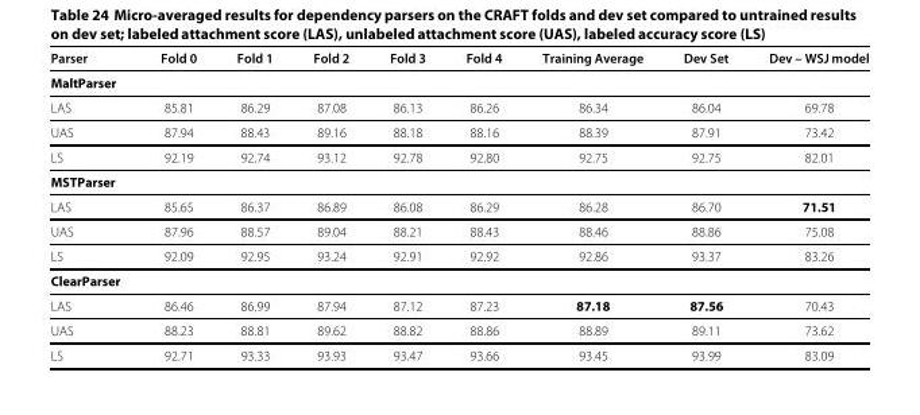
<table><thead><tr><td>Parser</td><td>Fold 0</td><td>Fold 1</td><td>Fold 2</td><td>Fold 3</td><td>Fold 4</td><td>Training Average</td><td>Dev Set</td><td>Dev – WSJ model</td></tr></thead><tbody><tr><td colspan="9">MaltParser</td></tr><tr><td>LAS</td><td>85.81</td><td>86.29</td><td>87.08</td><td>86.13</td><td>86.26</td><td>86.34</td><td>86.04</td><td>69.78</td></tr><tr><td>UAS</td><td>87.94</td><td>88.43</td><td>89.16</td><td>88.18</td><td>88.16</td><td>88.39</td><td>87.91</td><td>73.42</td></tr><tr><td>LS</td><td>92.19</td><td>92.74</td><td>93.12</td><td>92.78</td><td>92.80</td><td>92.75</td><td>92.75</td><td>82.01</td></tr><tr><td colspan="9">MSTParser</td></tr><tr><td>LAS</td><td>85.65</td><td>86.37</td><td>86.89</td><td>86.08</td><td>86.29</td><td>86.28</td><td>86.70</td><td>71.51</td></tr><tr><td>UAS</td><td>87.96</td><td>88.57</td><td>89.04</td><td>88.21</td><td>88.43</td><td>88.46</td><td>88.86</td><td>75.08</td></tr><tr><td>LS</td><td>92.09</td><td>92.95</td><td>93.24</td><td>92.91</td><td>92.92</td><td>92.86</td><td>93.37</td><td>83.26</td></tr><tr><td colspan="9">ClearParser</td></tr><tr><td>LAS</td><td>86.46</td><td>86.99</td><td>87.94</td><td>87.12</td><td>87.23</td><td>87.18</td><td>87.56</td><td>70.43</td></tr><tr><td>UAS</td><td>88.23</td><td>88.81</td><td>89.62</td><td>88.82</td><td>88.86</td><td>88.89</td><td>89.11</td><td>73.62</td></tr><tr><td>LS</td><td>92.71</td><td>93.33</td><td>93.93</td><td>93.47</td><td>93.66</td><td>93.45</td><td>93.99</td><td>83.09</td></tr></tbody></table>